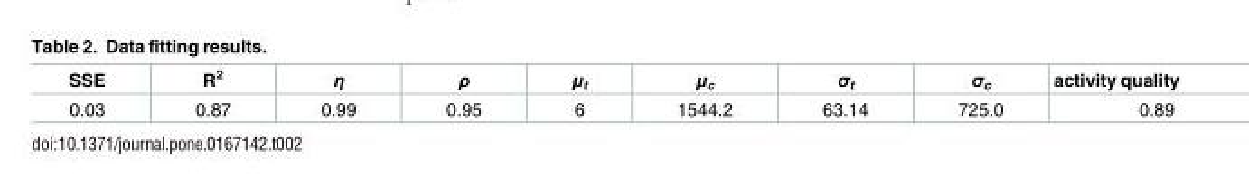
<table><thead><tr><td>SSE</td><td>R<sup>2</sup></td><td>η</td><td>ρ</td><td>μ<sub>t</sub></td><td>μ<sub>c</sub></td><td>σ<sub>t</sub></td><td>σ<sub>c</sub></td><td>activity quality</td></tr></thead><tbody><tr><td>0.03</td><td>0.87</td><td>0.99</td><td>0.95</td><td>6</td><td>1544.2</td><td>63.14</td><td>725.0</td><td>0.89</td></tr></tbody></table>